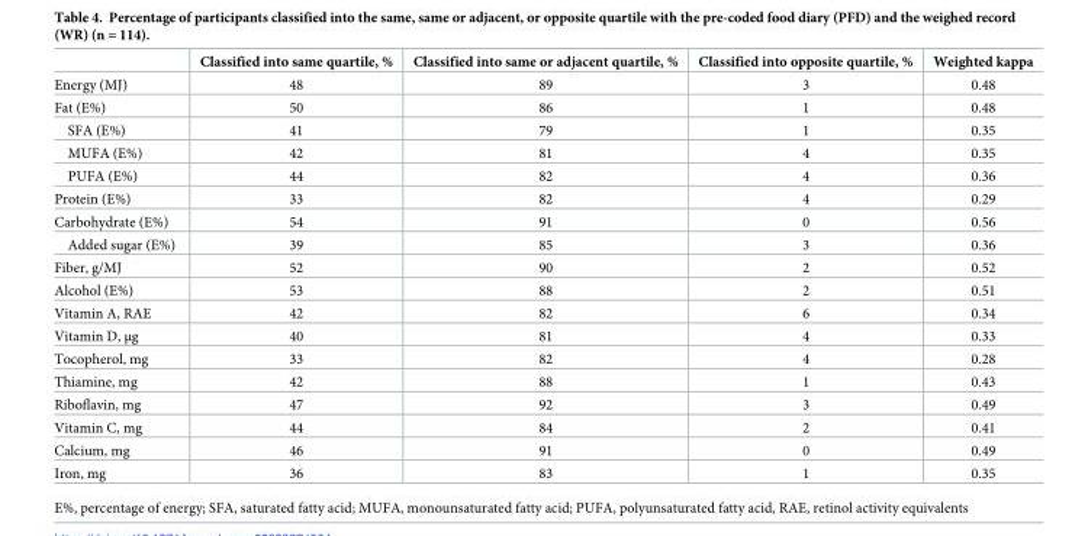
<table><thead><tr><td></td><td>Classified into same quartile, %</td><td>Classified into same or adjacent quartile, %</td><td>Classified into opposite quartile, %</td><td>Weighted kappa</td></tr></thead><tbody><tr><td>Energy (MJ)</td><td>48</td><td>89</td><td>3</td><td>0.48</td></tr><tr><td>Fat (E%)</td><td>50</td><td>86</td><td>1</td><td>0.48</td></tr><tr><td>SFA (E%)</td><td>41</td><td>79</td><td>1</td><td>0.35</td></tr><tr><td>MUFA (E%)</td><td>42</td><td>81</td><td>4</td><td>0.35</td></tr><tr><td>PUFA (E%)</td><td>44</td><td>82</td><td>4</td><td>0.36</td></tr><tr><td>Protein (E%)</td><td>33</td><td>82</td><td>4</td><td>0.29</td></tr><tr><td>Carbohydrate (E%)</td><td>54</td><td>91</td><td>0</td><td>0.56</td></tr><tr><td>Added sugar (E%)</td><td>39</td><td>85</td><td>3</td><td>0.36</td></tr><tr><td>Fiber, g/MJ</td><td>52</td><td>90</td><td>2</td><td>0.52</td></tr><tr><td>Alcohol (E%)</td><td>53</td><td>88</td><td>2</td><td>0.51</td></tr><tr><td>Vitamin A, RAE</td><td>42</td><td>82</td><td>6</td><td>0.34</td></tr><tr><td>Vitamin D, μg</td><td>40</td><td>81</td><td>4</td><td>0.33</td></tr><tr><td>Tocopherol, mg</td><td>33</td><td>82</td><td>4</td><td>0.28</td></tr><tr><td>Thiamine, mg</td><td>42</td><td>88</td><td>1</td><td>0.43</td></tr><tr><td>Riboflavin, mg</td><td>47</td><td>92</td><td>3</td><td>0.49</td></tr><tr><td>Vitamin C, mg</td><td>44</td><td>84</td><td>2</td><td>0.41</td></tr><tr><td>Calcium, mg</td><td>46</td><td>91</td><td>0</td><td>0.49</td></tr><tr><td>Iron, mg</td><td>36</td><td>83</td><td>1</td><td>0.35</td></tr></tbody></table>